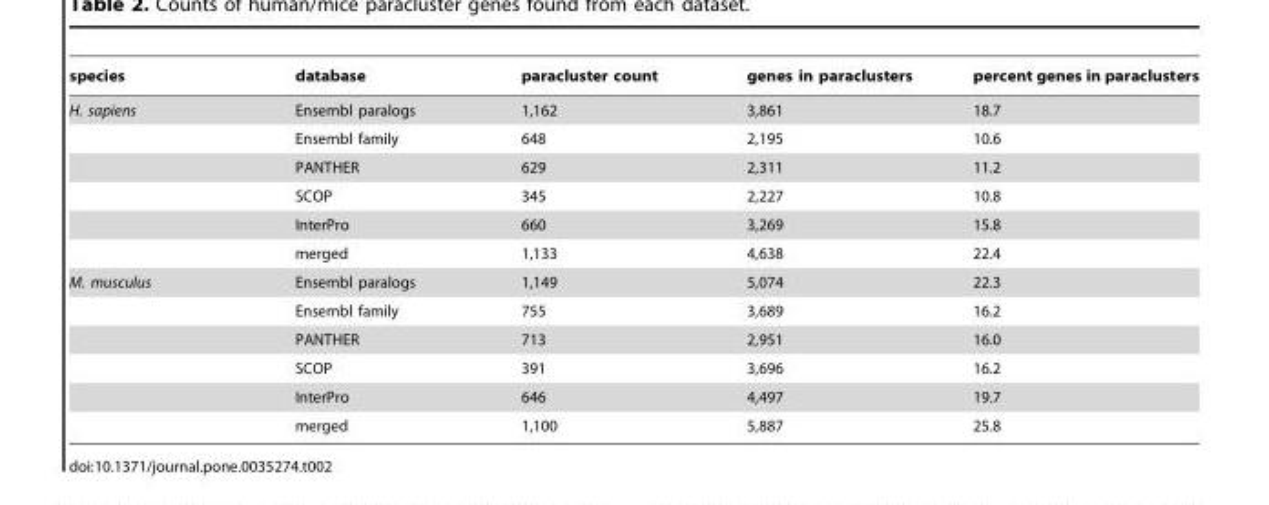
<table><thead><tr><td>species</td><td>database</td><td>paracluster count</td><td>genes in paraclusters</td><td>percent genes in paraclusters</td></tr></thead><tbody><tr><td rowspan="6">H. sapiens</td><td>Ensembl paralogs</td><td>1,162</td><td>3,861</td><td>18.7</td></tr><tr><td>Ensembl family</td><td>648</td><td>2,195</td><td>10.6</td></tr><tr><td>PANTHER</td><td>629</td><td>2,311</td><td>11.2</td></tr><tr><td>SCOP</td><td>345</td><td>2,227</td><td>10.8</td></tr><tr><td>InterPro</td><td>660</td><td>3,269</td><td>15.8</td></tr><tr><td>merged</td><td>1,133</td><td>4,638</td><td>22.4</td></tr><tr><td rowspan="6">M. musculus</td><td>Ensembl paralogs</td><td>1,149</td><td>5,074</td><td>22.3</td></tr><tr><td>Ensembl family</td><td>755</td><td>3,689</td><td>16.2</td></tr><tr><td>PANTHER</td><td>713</td><td>2,951</td><td>16.0</td></tr><tr><td>SCOP</td><td>391</td><td>3,696</td><td>16.2</td></tr><tr><td>InterPro</td><td>646</td><td>4,497</td><td>19.7</td></tr><tr><td>merged</td><td>1,100</td><td>5,887</td><td>25.8</td></tr></tbody></table>